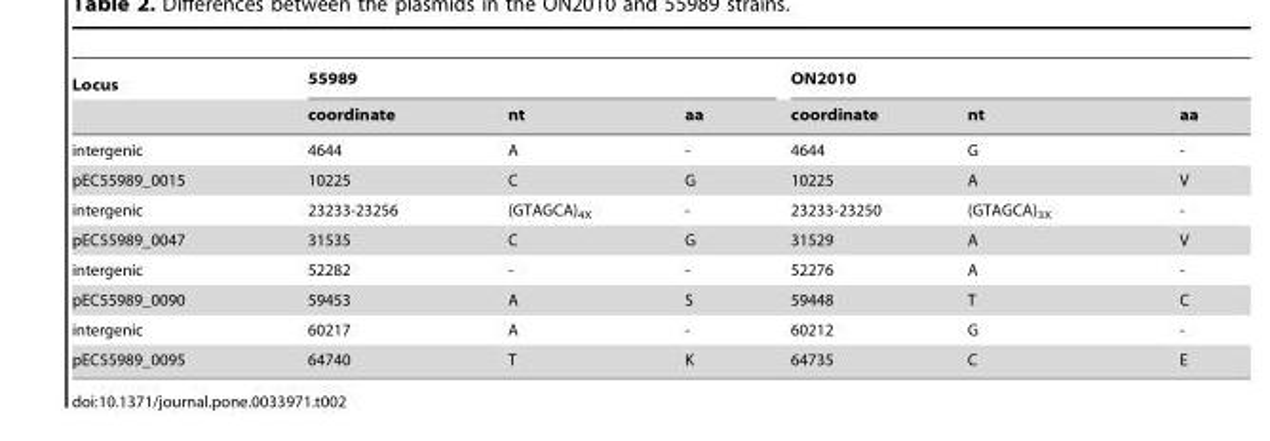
<table><thead><tr><td rowspan="2">Locus</td><td colspan="3">55989</td><td colspan="3">ON2010</td></tr><tr><td>coordinate</td><td>nt</td><td>aa</td><td>coordinate</td><td>nt</td><td>aa</td></tr></thead><tbody><tr><td>intergenic</td><td>4644</td><td>A</td><td>-</td><td>4644</td><td>G</td><td>-</td></tr><tr><td>pEC55989_0015</td><td>10225</td><td>C</td><td>G</td><td>10225</td><td>A</td><td>V</td></tr><tr><td>intergenic</td><td>23233-23256</td><td>(GTAGCA)<sub>4X</sub></td><td>-</td><td>23233-23250</td><td>(GTAGCA)<sub>3X</sub></td><td>-</td></tr><tr><td>pEC55989_0047</td><td>31535</td><td>C</td><td>G</td><td>31529</td><td>A</td><td>V</td></tr><tr><td>intergenic</td><td>52282</td><td>-</td><td>-</td><td>52276</td><td>A</td><td>-</td></tr><tr><td>pEC55989_0090</td><td>59453</td><td>A</td><td>S</td><td>59448</td><td>T</td><td>C</td></tr><tr><td>intergenic</td><td>60217</td><td>A</td><td>-</td><td>60212</td><td>G</td><td>-</td></tr><tr><td>pEC55989_0095</td><td>64740</td><td>T</td><td>K</td><td>64735</td><td>C</td><td>E</td></tr></tbody></table>